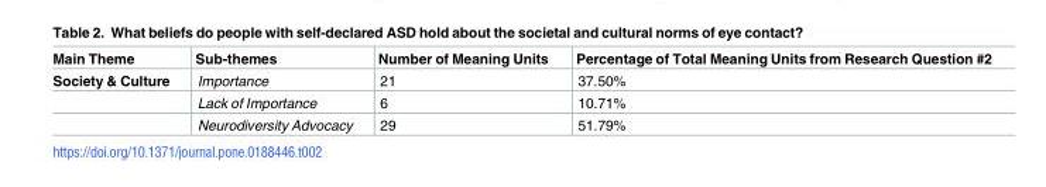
<table><thead><tr><td>Main Theme</td><td>Sub-themes</td><td>Number of Meaning Units</td><td>Percentage of Total Meaning Units from Research Question #2</td></tr></thead><tbody><tr><td rowspan="3">Society &amp; Culture</td><td>Importance</td><td>21</td><td>37.50%</td></tr><tr><td>Lack of Importance</td><td>6</td><td>10.71%</td></tr><tr><td>Neurodiversity Advocacy</td><td>29</td><td>51.79%</td></tr></tbody></table>